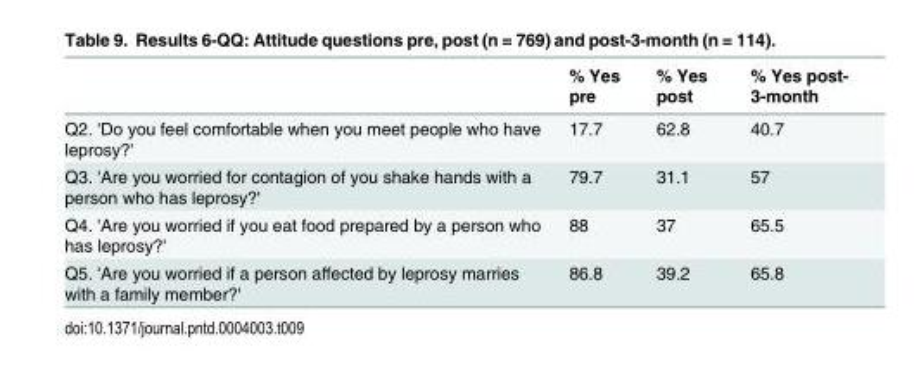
<table><thead><tr><td></td><td>% Yes pre</td><td>% Yes post</td><td>% Yes post- 3-month</td></tr></thead><tbody><tr><td>Q2. &#x27;Do you feel comfortable when you meet people who have leprosy?&#x27;</td><td>17.7</td><td>62.8</td><td>40.7</td></tr><tr><td>Q3. &#x27;Are you worried for contagion of you shake hands with a person who has leprosy?&#x27;</td><td>79.7</td><td>31.1</td><td>57</td></tr><tr><td>Q4. &#x27;Are you worried if you eat food prepared by a person who has leprosy?&#x27;</td><td>88</td><td>37</td><td>65.5</td></tr><tr><td>Q5. &#x27;Are you worried if a person affected by leprosy marries with a family member?&#x27;</td><td>86.8</td><td>39.2</td><td>65.8</td></tr></tbody></table>